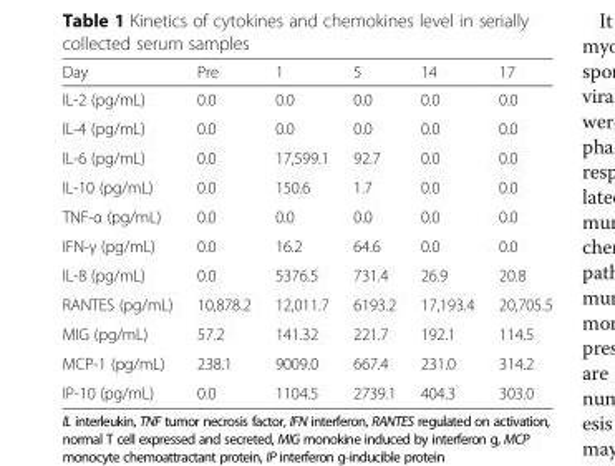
<table><thead><tr><td>Day</td><td>Pre</td><td>1</td><td>5</td><td>14</td><td>17</td></tr></thead><tbody><tr><td>IL-2 (pg/mL)</td><td>0.0</td><td>0.0</td><td>0.0</td><td>0.0</td><td>0.0</td></tr><tr><td>IL-4 (pg/mL)</td><td>0.0</td><td>0.0</td><td>0.0</td><td>0.0</td><td>0.0</td></tr><tr><td>IL-6 (pg/mL)</td><td>0.0</td><td>17,599.1</td><td>92.7</td><td>0.0</td><td>0.0</td></tr><tr><td>IL-10 (pg/mL)</td><td>0.0</td><td>150.6</td><td>1.7</td><td>0.0</td><td>0.0</td></tr><tr><td>TNF-α (pg/mL)</td><td>0.0</td><td>0.0</td><td>0.0</td><td>0.0</td><td>0.0</td></tr><tr><td>IFN-γ (pg/mL)</td><td>0.0</td><td>16.2</td><td>64.6</td><td>0.0</td><td>0.0</td></tr><tr><td>IL-8 (pg/mL)</td><td>0.0</td><td>5376.5</td><td>731.4</td><td>26.9</td><td>20.8</td></tr><tr><td>RANTES (pg/mL)</td><td>10,878.2</td><td>12,011.7</td><td>6193.2</td><td>17,193.4</td><td>20,705.5</td></tr><tr><td>MIG (pg/mL)</td><td>57.2</td><td>141.32</td><td>221.7</td><td>192.1</td><td>114.5</td></tr><tr><td>MCP-1 (pg/mL)</td><td>238.1</td><td>9009.0</td><td>667.4</td><td>231.0</td><td>314.2</td></tr><tr><td>IP-10 (pg/mL)</td><td>0.0</td><td>1104.5</td><td>2739.1</td><td>404.3</td><td>303.0</td></tr></tbody></table>